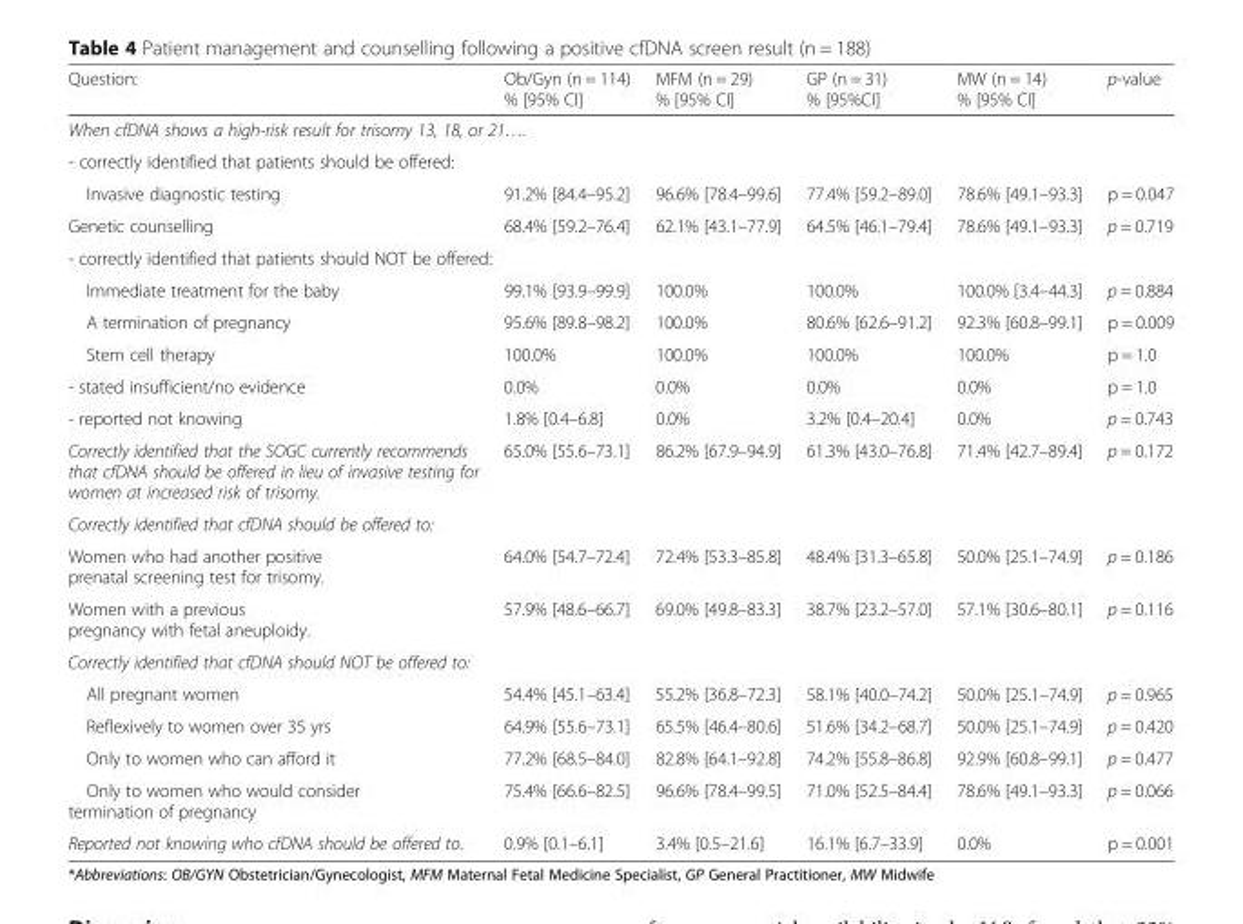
<table><thead><tr><td>Question:</td><td>Ob/Gyn (n = 114) % [95% CI]</td><td>MFM (n = 29) % [95% CI]</td><td>GP (n = 31) % [95%CI]</td><td>MW (n = 14) % [95% CI]</td><td>p-value</td></tr></thead><tbody><tr><td colspan="6">When cfDNA shows a high-risk result for trisomy 13, 18, or 21….</td></tr><tr><td colspan="6">- correctly identified that patients should be offered:</td></tr><tr><td>Invasive diagnostic testing</td><td>91.2% [84.4–95.2]</td><td>96.6% [78.4–99.6]</td><td>77.4% [59.2–89.0]</td><td>78.6% [49.1–93.3]</td><td>p = 0.047</td></tr><tr><td>Genetic counselling</td><td>68.4% [59.2–76.4]</td><td>62.1% [43.1–77.9]</td><td>64.5% [46.1–79.4]</td><td>78.6% [49.1–93.3]</td><td>p = 0.719</td></tr><tr><td colspan="6">- correctly identified that patients should NOT be offered:</td></tr><tr><td>Immediate treatment for the baby</td><td>99.1% [93.9–99.9]</td><td>100.0%</td><td>100.0%</td><td>100.0% [3.4–44.3]</td><td>p = 0.884</td></tr><tr><td>A termination of pregnancy</td><td>95.6% [89.8–98.2]</td><td>100.0%</td><td>80.6% [62.6–91.2]</td><td>92.3% [60.8–99.1]</td><td>p = 0.009</td></tr><tr><td>Stem cell therapy</td><td>100.0%</td><td>100.0%</td><td>100.0%</td><td>100.0%</td><td>p = 1.0</td></tr><tr><td>- stated insufficient/no evidence</td><td>0.0%</td><td>0.0%</td><td>0.0%</td><td>0.0%</td><td>p = 1.0</td></tr><tr><td>- reported not knowing</td><td>1.8% [0.4–6.8]</td><td>0.0%</td><td>3.2% [0.4–20.4]</td><td>0.0%</td><td>p = 0.743</td></tr><tr><td>Correctly identified that the SOGC currently recommends that cfDNA should be offered in lieu of invasive testing for women at increased risk of trisomy.</td><td>65.0% [55.6–73.1]</td><td>86.2% [67.9–94.9]</td><td>61.3% [43.0–76.8]</td><td>71.4% [42.7–89.4]</td><td>p = 0.172</td></tr><tr><td colspan="6">Correctly identified that cfDNA should be offered to:</td></tr><tr><td>Women who had another positive prenatal screening test for trisomy.</td><td>64.0% [54.7–72.4]</td><td>72.4% [53.3–85.8]</td><td>48.4% [31.3–65.8]</td><td>50.0% [25.1–74.9]</td><td>p = 0.186</td></tr><tr><td>Women with a previous pregnancy with fetal aneuploidy.</td><td>57.9% [48.6–66.7]</td><td>69.0% [49.8–83.3]</td><td>38.7% [23.2–57.0]</td><td>57.1% [30.6–80.1]</td><td>p = 0.116</td></tr><tr><td colspan="6">Correctly identified that cfDNA should NOT be offered to:</td></tr><tr><td>All pregnant women</td><td>54.4% [45.1–63.4]</td><td>55.2% [36.8–72.3]</td><td>58.1% [40.0–74.2]</td><td>50.0% [25.1–74.9]</td><td>p = 0.965</td></tr><tr><td>Reflexively to women over 35 yrs</td><td>64.9% [55.6–73.1]</td><td>65.5% [46.4–80.6]</td><td>51.6% [34.2–68.7]</td><td>50.0% [25.1–74.9]</td><td>p = 0.420</td></tr><tr><td>Only to women who can afford it</td><td>77.2% [68.5–84.0]</td><td>82.8% [64.1–92.8]</td><td>74.2% [55.8–86.8]</td><td>92.9% [60.8–99.1]</td><td>p = 0.477</td></tr><tr><td>Only to women who would consider termination of pregnancy</td><td>75.4% [66.6–82.5]</td><td>96.6% [78.4–99.5]</td><td>71.0% [52.5–84.4]</td><td>78.6% [49.1–93.3]</td><td>p = 0.066</td></tr><tr><td>Reported not knowing who cfDNA should be offered to.</td><td>0.9% [0.1–6.1]</td><td>3.4% [0.5–21.6]</td><td>16.1% [6.7–33.9]</td><td>0.0%</td><td>p = 0.001</td></tr></tbody></table>